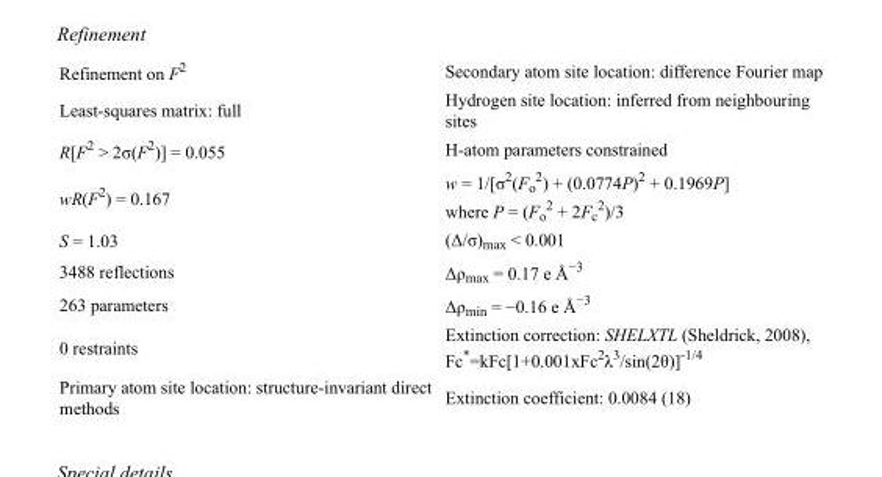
<table><tbody><tr><td>Refinement on F<sup>2</sup></td><td>Secondary atom site location: difference Fourier map</td></tr><tr><td>Least-squares matrix: full</td><td>Hydrogen site location: inferred from neighbouring sites</td></tr><tr><td>R[F<sup>2</sup> &gt; 2σ(F<sup>2</sup>)] = 0.055</td><td>H-atom parameters constrained</td></tr><tr><td>wR(F<sup>2</sup>) = 0.167</td><td>w = 1/[σ<sup>2</sup>(F<sub>o</sub> <sup>2</sup>) + (0.0774P)<sup>2</sup> + 0.1969P] where P = (F<sub>o</sub> <sup>2</sup> + 2F<sub>c</sub> <sup>2</sup>)/3</td></tr><tr><td>S = 1.03</td><td>(Δ/σ)<sub>max</sub> &lt; 0.001</td></tr><tr><td>3488 reflections</td><td>Δρ<sub>max</sub> = 0.17 e Å<sup>−3</sup></td></tr><tr><td>263 parameters</td><td>Δρ<sub>min</sub> = −0.16 e Å<sup>−3</sup></td></tr><tr><td>0 restraints</td><td>Extinction correction: SHELXTL (Sheldrick, 2008), Fc*=kFc[1+0.001xFc<sup>2</sup>λ<sup>3</sup>/sin(2θ)]<sup>-1/4</sup></td></tr><tr><td>Primary atom site location: structure-invariant direct methods</td><td>Extinction coefficient: 0.0084 (18)</td></tr></tbody></table>